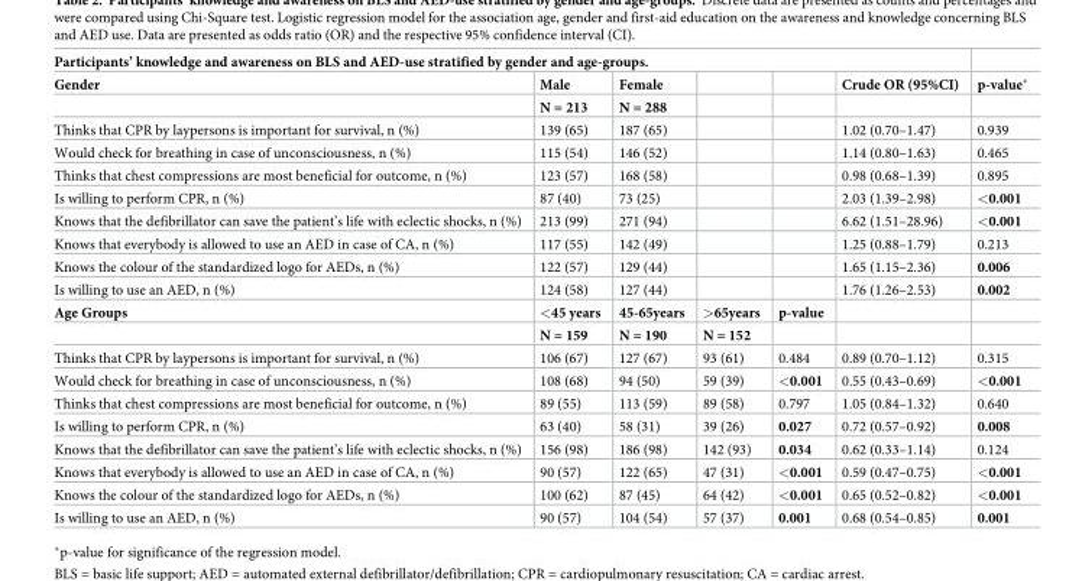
<table><thead><tr><td colspan="6">Participants’ knowledge and awareness on BLS and AED-use stratified by gender and age-groups.</td><td rowspan="2">p-value*</td></tr><tr><td>Gender</td><td>Male</td><td>Female</td><td></td><td></td><td>Crude OR (95%CI)</td></tr></thead><tbody><tr><td></td><td>N = 213</td><td>N = 288</td><td></td><td></td><td></td><td></td></tr><tr><td>Thinks that CPR by laypersons is important for survival, n (%)</td><td>139 (65)</td><td>187 (65)</td><td></td><td></td><td>1.02 (0.70–1.47)</td><td>0.939</td></tr><tr><td>Would check for breathing in case of unconsciousness, n (%)</td><td>115 (54)</td><td>146 (52)</td><td></td><td></td><td>1.14 (0.80–1.63)</td><td>0.465</td></tr><tr><td>Thinks that chest compressions are most beneficial for outcome, n (%)</td><td>123 (57)</td><td>168 (58)</td><td></td><td></td><td>0.98 (0.68–1.39)</td><td>0.895</td></tr><tr><td>Is willing to perform CPR, n (%)</td><td>87 (40)</td><td>73 (25)</td><td></td><td></td><td>2.03 (1.39–2.98)</td><td>&lt;0.001</td></tr><tr><td>Knows that the defibrillator can save the patient’s life with eclectic shocks, n (%)</td><td>213 (99)</td><td>271 (94)</td><td></td><td></td><td>6.62 (1.51–28.96)</td><td>&lt;0.001</td></tr><tr><td>Knows that everybody is allowed to use an AED in case of CA, n (%)</td><td>117 (55)</td><td>142 (49)</td><td></td><td></td><td>1.25 (0.88–1.79)</td><td>0.213</td></tr><tr><td>Knows the colour of the standardized logo for AEDs, n (%)</td><td>122 (57)</td><td>129 (44)</td><td></td><td></td><td>1.65 (1.15–2.36)</td><td>0.006</td></tr><tr><td>Is willing to use an AED, n (%)</td><td>124 (58)</td><td>127 (44)</td><td></td><td></td><td>1.76 (1.26–2.53)</td><td>0.002</td></tr><tr><td rowspan="2">Age Groups</td><td>&lt;45 years</td><td>45-65years</td><td>&gt;65years</td><td>p-value</td><td></td><td></td></tr><tr><td>N = 159</td><td>N = 190</td><td>N = 152</td><td></td><td></td><td></td></tr><tr><td>Thinks that CPR by laypersons is important for survival, n (%)</td><td>106 (67)</td><td>127 (67)</td><td>93 (61)</td><td>0.484</td><td>0.89 (0.70–1.12)</td><td>0.315</td></tr><tr><td>Would check for breathing in case of unconsciousness, n (%)</td><td>108 (68)</td><td>94 (50)</td><td>59 (39)</td><td>&lt;0.001</td><td>0.55 (0.43–0.69)</td><td>&lt;0.001</td></tr><tr><td>Thinks that chest compressions are most beneficial for outcome, n (%)</td><td>89 (55)</td><td>113 (59)</td><td>89 (58)</td><td>0.797</td><td>1.05 (0.84–1.32)</td><td>0.640</td></tr><tr><td>Is willing to perform CPR, n (%)</td><td>63 (40)</td><td>58 (31)</td><td>39 (26)</td><td>0.027</td><td>0.72 (0.57–0.92)</td><td>0.008</td></tr><tr><td>Knows that the defibrillator can save the patient’s life with eclectic shocks, n (%)</td><td>156 (98)</td><td>186 (98)</td><td>142 (93)</td><td>0.034</td><td>0.62 (0.33–1.14)</td><td>0.124</td></tr><tr><td>Knows that everybody is allowed to use an AED in case of CA, n (%)</td><td>90 (57)</td><td>122 (65)</td><td>47 (31)</td><td>&lt;0.001</td><td>0.59 (0.47–0.75)</td><td>&lt;0.001</td></tr><tr><td>Knows the colour of the standardized logo for AEDs, n (%)</td><td>100 (62)</td><td>87 (45)</td><td>64 (42)</td><td>&lt;0.001</td><td>0.65 (0.52–0.82)</td><td>&lt;0.001</td></tr><tr><td>Is willing to use an AED, n (%)</td><td>90 (57)</td><td>104 (54)</td><td>57 (37)</td><td>0.001</td><td>0.68 (0.54–0.85)</td><td>0.001</td></tr></tbody></table>